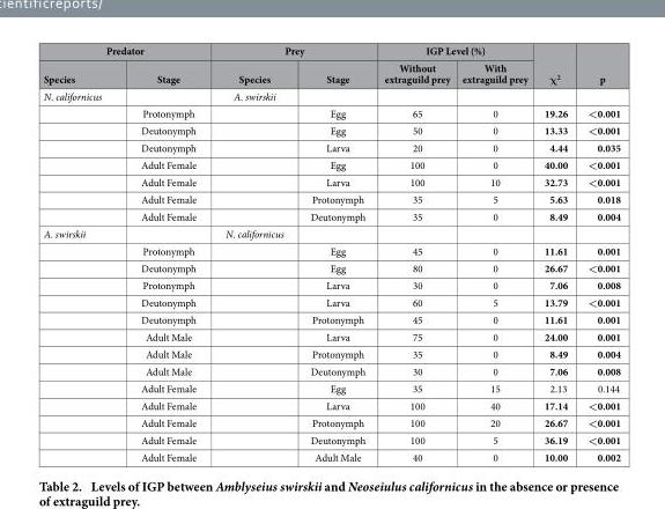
<table><thead><tr><td colspan="2">Predator</td><td colspan="2">Prey</td><td colspan="2">IGP Level (%)</td><td rowspan="2">χ<sup>2</sup></td><td rowspan="2">p</td></tr><tr><td>Species</td><td>Stage</td><td>Species</td><td>Stage</td><td>Without extraguild prey</td><td>With extraguild prey</td></tr></thead><tbody><tr><td rowspan="8">N. californicus</td><td></td><td>A. swirskii</td><td></td><td></td><td></td><td></td><td></td></tr><tr><td>Protonymph</td><td></td><td>Egg</td><td>65</td><td>0</td><td>19.26</td><td>&lt;0.001</td></tr><tr><td>Deutonymph</td><td></td><td>Egg</td><td>50</td><td>0</td><td>13.33</td><td>&lt;0.001</td></tr><tr><td>Deutonymph</td><td></td><td>Larva</td><td>20</td><td>0</td><td>4.44</td><td>0.035</td></tr><tr><td>Adult Female</td><td></td><td>Egg</td><td>100</td><td>0</td><td>40.00</td><td>&lt;0.001</td></tr><tr><td>Adult Female</td><td></td><td>Larva</td><td>100</td><td>10</td><td>32.73</td><td>&lt;0.001</td></tr><tr><td>Adult Female</td><td></td><td>Protonymph</td><td>35</td><td>5</td><td>5.63</td><td>0.018</td></tr><tr><td>Adult Female</td><td></td><td>Deutonymph</td><td>35</td><td>0</td><td>8.49</td><td>0.004</td></tr><tr><td rowspan="14">A. swirskii</td><td></td><td>N. californicus</td><td></td><td></td><td></td><td></td><td></td></tr><tr><td>Protonymph</td><td></td><td>Egg</td><td>45</td><td>0</td><td>11.61</td><td>0.001</td></tr><tr><td>Deutonymph</td><td></td><td>Egg</td><td>80</td><td>0</td><td>26.67</td><td>&lt;0.001</td></tr><tr><td>Protonymph</td><td></td><td>Larva</td><td>30</td><td>0</td><td>7.06</td><td>0.008</td></tr><tr><td>Deutonymph</td><td></td><td>Larva</td><td>60</td><td>5</td><td>13.79</td><td>&lt;0.001</td></tr><tr><td>Deutonymph</td><td></td><td>Protonymph</td><td>45</td><td>0</td><td>11.61</td><td>0.001</td></tr><tr><td>Adult Male</td><td></td><td>Larva</td><td>75</td><td>0</td><td>24.00</td><td>0.001</td></tr><tr><td>Adult Male</td><td></td><td>Protonymph</td><td>35</td><td>0</td><td>8.49</td><td>0.004</td></tr><tr><td>Adult Male</td><td></td><td>Deutonymph</td><td>30</td><td>0</td><td>7.06</td><td>0.008</td></tr><tr><td>Adult Female</td><td></td><td>Egg</td><td>35</td><td>15</td><td>2.13</td><td>0.144</td></tr><tr><td>Adult Female</td><td></td><td>Larva</td><td>100</td><td>40</td><td>17.14</td><td>&lt;0.001</td></tr><tr><td>Adult Female</td><td></td><td>Protonymph</td><td>100</td><td>20</td><td>26.67</td><td>&lt;0.001</td></tr><tr><td>Adult Female</td><td></td><td>Deutonymph</td><td>100</td><td>5</td><td>36.19</td><td>&lt;0.001</td></tr><tr><td>Adult Female</td><td></td><td>Adult Male</td><td>40</td><td>0</td><td>10.00</td><td>0.002</td></tr></tbody></table>